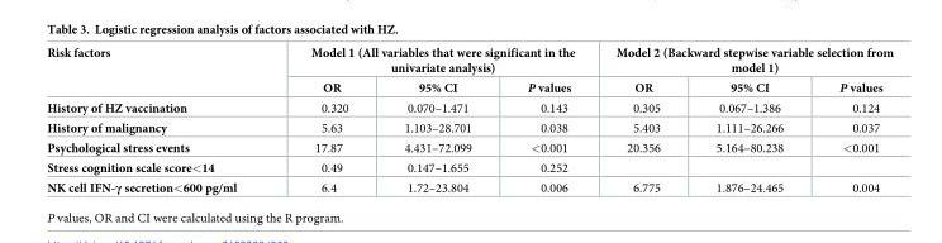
<table><thead><tr><td rowspan="2">Risk factors</td><td colspan="3">Model 1 (All variables that were significant in the univariate analysis)</td><td colspan="3">Model 2 (Backward stepwise variable selection from model 1)</td></tr><tr><td>OR</td><td>95% CI</td><td>P values</td><td>OR</td><td>95% CI</td><td>P values</td></tr></thead><tbody><tr><td>History of HZ vaccination</td><td>0.320</td><td>0.070–1.471</td><td>0.143</td><td>0.305</td><td>0.067–1.386</td><td>0.124</td></tr><tr><td>History of malignancy</td><td>5.63</td><td>1.103–28.701</td><td>0.038</td><td>5.403</td><td>1.111–26.266</td><td>0.037</td></tr><tr><td>Psychological stress events</td><td>17.87</td><td>4.431–72.099</td><td>&lt;0.001</td><td>20.356</td><td>5.164–80.238</td><td>&lt;0.001</td></tr><tr><td>Stress cognition scale score&lt;14</td><td>0.49</td><td>0.147–1.655</td><td>0.252</td><td></td><td></td><td></td></tr><tr><td>NK cell IFN-γ secretion&lt;600 pg/ml</td><td>6.4</td><td>1.72–23.804</td><td>0.006</td><td>6.775</td><td>1.876–24.465</td><td>0.004</td></tr></tbody></table>